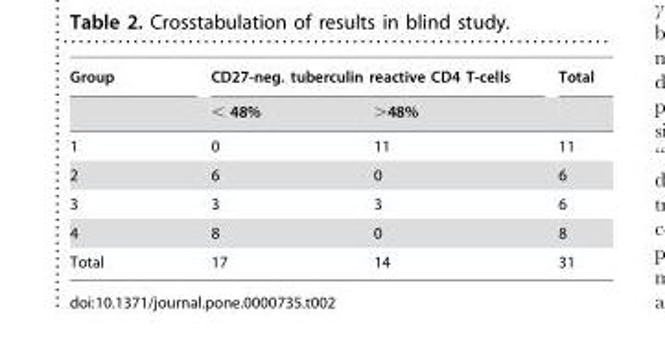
<table><thead><tr><td rowspan="2">Group</td><td colspan="2">CD27-neg. tuberculin reactive CD4 T-cells</td><td rowspan="2">Total</td></tr><tr><td>&lt; 48%</td><td>&gt;48%</td></tr></thead><tbody><tr><td>1</td><td>0</td><td>11</td><td>11</td></tr><tr><td>2</td><td>6</td><td>0</td><td>6</td></tr><tr><td>3</td><td>3</td><td>3</td><td>6</td></tr><tr><td>4</td><td>8</td><td>0</td><td>8</td></tr><tr><td>Total</td><td>17</td><td>14</td><td>31</td></tr></tbody></table>